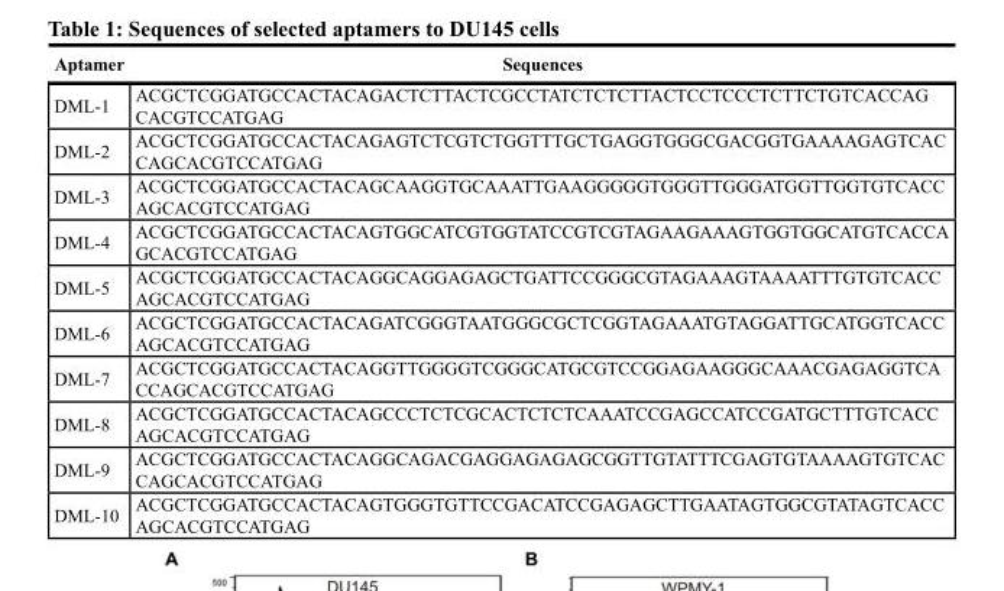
<table><thead><tr><td>Aptamer</td><td>Sequences</td></tr></thead><tbody><tr><td>DML-1</td><td>ACGCTCGGATGCCACTACAGACTCTTACTCGCCTATCTCTCTTACTCCTCCCTCTTCTGTCACCAG CACGTCCATGAG</td></tr><tr><td>DML-2</td><td>ACGCTCGGATGCCACTACAGAGTCTCGTCTGGTTTGCTGAGGTGGGCGACGGTGAAAAGAGTCAC CAGCACGTCCATGAG</td></tr><tr><td>DML-3</td><td>ACGCTCGGATGCCACTACAGCAAGGTGCAAATTGAAGGGGGTGGGTTGGGATGGTTGGTGTCACC AGCACGTCCATGAG</td></tr><tr><td>DML-4</td><td>ACGCTCGGATGCCACTACAGTGGCATCGTGGTATCCGTCGTAGAAGAAAGTGGTGGCATGTCACCA GCACGTCCATGAG</td></tr><tr><td>DML-5</td><td>ACGCTCGGATGCCACTACAGGCAGGAGAGCTGATTCCGGGCGTAGAAAGTAAAATTTGTGTCACC AGCACGTCCATGAG</td></tr><tr><td>DML-6</td><td>ACGCTCGGATGCCACTACAGATCGGGTAATGGGCGCTCGGTAGAAATGTAGGATTGCATGGTCACC AGCACGTCCATGAG</td></tr><tr><td>DML-7</td><td>ACGCTCGGATGCCACTACAGGTTGGGGTCGGGCATGCGTCCGGAGAAGGGCAAACGAGAGGTCA CCAGCACGTCCATGAG</td></tr><tr><td>DML-8</td><td>ACGCTCGGATGCCACTACAGCCCTCTCGCACTCTCTCAAATCCGAGCCATCCGATGCTTTGTCACC AGCACGTCCATGAG</td></tr><tr><td>DML-9</td><td>ACGCTCGGATGCCACTACAGGCAGACGAGGAGAGAGCGGTTGTATTTCGAGTGTAAAAGTGTCAC CAGCACGTCCATGAG</td></tr><tr><td>DML-10</td><td>ACGCTCGGATGCCACTACAGTGGGTGTTCCGACATCCGAGAGCTTGAATAGTGGCGTATAGTCACC AGCACGTCCATGAG</td></tr></tbody></table>